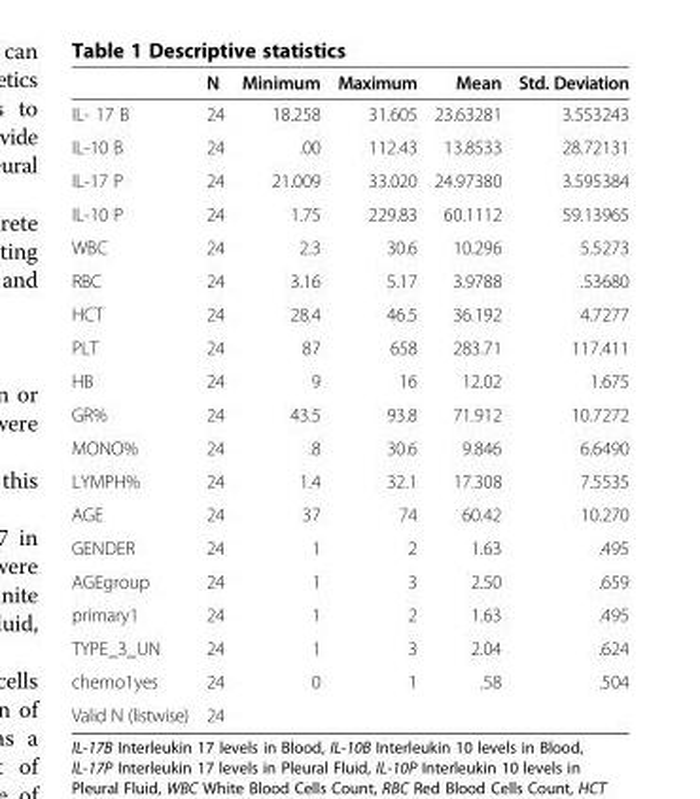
<table><thead><tr><td></td><td>N</td><td>Minimum</td><td>Maximum</td><td>Mean</td><td>Std. Deviation</td></tr></thead><tbody><tr><td>IL- 17 B</td><td>24</td><td>18.258</td><td>31.605</td><td>23.63281</td><td>3.553243</td></tr><tr><td>IL-10 B</td><td>24</td><td>.00</td><td>112.43</td><td>13.8533</td><td>28.72131</td></tr><tr><td>IL-17 P</td><td>24</td><td>21.009</td><td>33.020</td><td>24.97380</td><td>3.595384</td></tr><tr><td>IL-10 P</td><td>24</td><td>1.75</td><td>229.83</td><td>60.1112</td><td>59.13965</td></tr><tr><td>WBC</td><td>24</td><td>2.3</td><td>30.6</td><td>10.296</td><td>5.5273</td></tr><tr><td>RBC</td><td>24</td><td>3.16</td><td>5.17</td><td>3.9788</td><td>.53680</td></tr><tr><td>HCT</td><td>24</td><td>28.4</td><td>46.5</td><td>36.192</td><td>4.7277</td></tr><tr><td>PLT</td><td>24</td><td>87</td><td>658</td><td>283.71</td><td>117.411</td></tr><tr><td>HB</td><td>24</td><td>9</td><td>16</td><td>12.02</td><td>1.675</td></tr><tr><td>GR%</td><td>24</td><td>43.5</td><td>93.8</td><td>71.912</td><td>10.7272</td></tr><tr><td>MONO%</td><td>24</td><td>.8</td><td>30.6</td><td>9.846</td><td>6.6490</td></tr><tr><td>LYMPH%</td><td>24</td><td>1.4</td><td>32.1</td><td>17.308</td><td>7.5535</td></tr><tr><td>AGE</td><td>24</td><td>37</td><td>74</td><td>60.42</td><td>10.270</td></tr><tr><td>GENDER</td><td>24</td><td>1</td><td>2</td><td>1.63</td><td>.495</td></tr><tr><td>AGEgroup</td><td>24</td><td>1</td><td>3</td><td>2.50</td><td>.659</td></tr><tr><td>primary1</td><td>24</td><td>1</td><td>2</td><td>1.63</td><td>.495</td></tr><tr><td>TYPE_3_UN</td><td>24</td><td>1</td><td>3</td><td>2.04</td><td>.624</td></tr><tr><td>chemo1yes</td><td>24</td><td>0</td><td>1</td><td>.58</td><td>.504</td></tr><tr><td>Valid N (listwise)</td><td>24</td><td></td><td></td><td></td><td></td></tr></tbody></table>